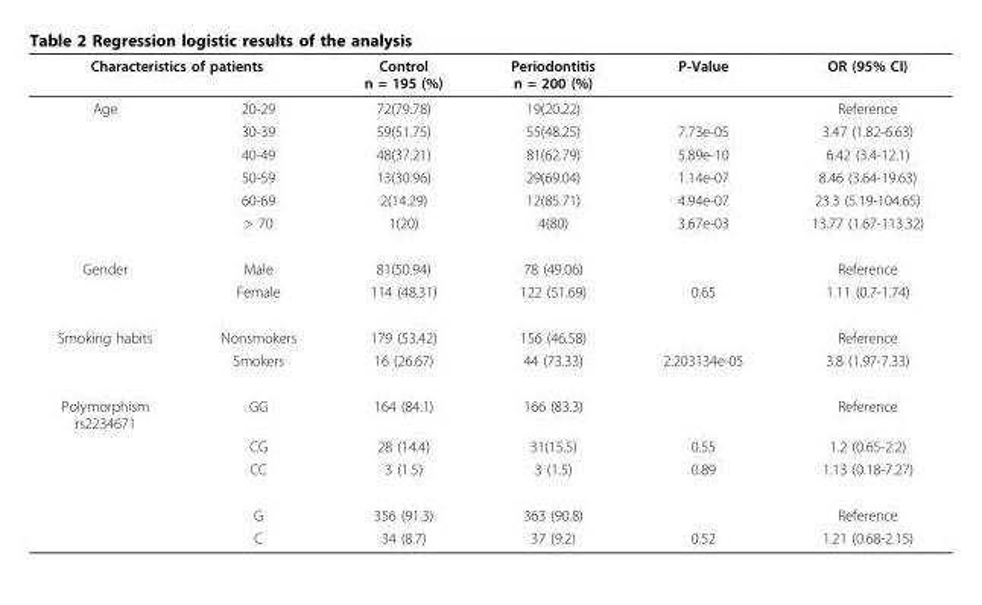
<table><thead><tr><td colspan="2">Characteristics of patients</td><td rowspan="2">Control n = 195 (%) 72(79.78)</td><td rowspan="2">Periodontitis n = 200 (%) 19(20.22)</td><td rowspan="2">P-Value</td><td rowspan="2">OR (95% CI) Reference</td></tr><tr><td>Age</td><td>20-29</td></tr></thead><tbody><tr><td></td><td>30-39</td><td>59(51.75)</td><td>55(48.25)</td><td>7.73e-05</td><td>3.47 (1.82-6.63)</td></tr><tr><td></td><td>40-49</td><td>48(37.21)</td><td>81(62.79)</td><td>5.89e-10</td><td>6.42 (3.4-12.1)</td></tr><tr><td></td><td>50-59</td><td>13(30.96)</td><td>29(69.04)</td><td>1.14e-07</td><td>8.46 (3.64-19.63)</td></tr><tr><td></td><td>60-69</td><td>2(14.29)</td><td>12(85.71)</td><td>4.94e-07</td><td>23.3 (5.19-104.65)</td></tr><tr><td></td><td>&gt; 70</td><td>1(20)</td><td>4(80)</td><td>3.67e-03</td><td>13.77 (1.67-113.32)</td></tr><tr><td rowspan="2">Gender</td><td>Male</td><td>81(50.94)</td><td>78 (49.06)</td><td></td><td>Reference</td></tr><tr><td>Female</td><td>114 (48.31)</td><td>122 (51.69)</td><td>0.65</td><td>1.11 (0.7-1.74)</td></tr><tr><td rowspan="2">Smoking habits</td><td>Nonsmokers</td><td>179 (53.42)</td><td>156 (46.58)</td><td></td><td>Reference</td></tr><tr><td>Smokers</td><td>16 (26.67)</td><td>44 (73.33)</td><td>2.203134e-05</td><td>3.8 (1.97-7.33)</td></tr><tr><td rowspan="5">Polymorphism rs2234671</td><td>GG</td><td>164 (84.1)</td><td>166 (83.3)</td><td></td><td>Reference</td></tr><tr><td>CG</td><td>28 (14.4)</td><td>31(15.5)</td><td>0.55</td><td>1.2 (0.65-2.2)</td></tr><tr><td>CC</td><td>3 (1.5)</td><td>3 (1.5)</td><td>0.89</td><td>1.13 (0.18-7.27)</td></tr><tr><td>G</td><td>356 (91.3)</td><td>363 (90.8)</td><td></td><td>Reference</td></tr><tr><td>C</td><td>34 (8.7)</td><td>37 (9.2)</td><td>0.52</td><td>1.21 (0.68-2.15)</td></tr></tbody></table>